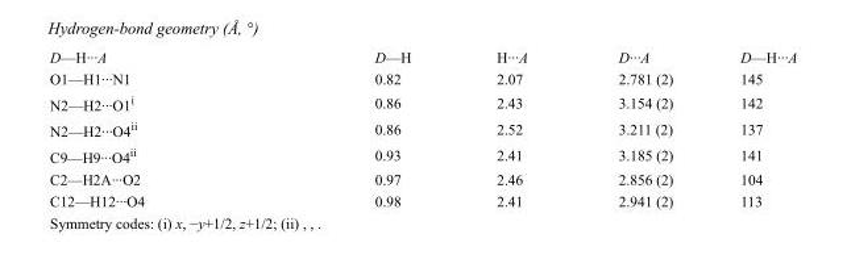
<table><tbody><tr><td>D—H···A</td><td>D—H</td><td>H···A</td><td>D···A</td><td>D—H···A</td></tr><tr><td>O1—H1···N1</td><td>0.82</td><td>2.07</td><td>2.781 (2)</td><td>145</td></tr><tr><td>N2—H2···O1<sup>i</sup></td><td>0.86</td><td>2.43</td><td>3.154 (2)</td><td>142</td></tr><tr><td>N2—H2···O4<sup>ii</sup></td><td>0.86</td><td>2.52</td><td>3.211 (2)</td><td>137</td></tr><tr><td>C9—H9···O4<sup>ii</sup></td><td>0.93</td><td>2.41</td><td>3.185 (2)</td><td>141</td></tr><tr><td>C2—H2A···O2</td><td>0.97</td><td>2.46</td><td>2.856 (2)</td><td>104</td></tr><tr><td>C12—H12···O4</td><td>0.98</td><td>2.41</td><td>2.941 (2)</td><td>113</td></tr></tbody></table>